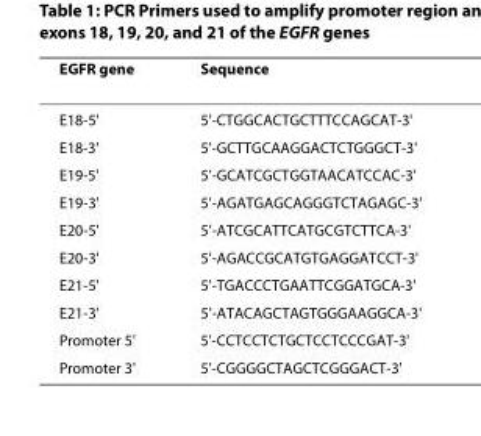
<table><thead><tr><td>EGFR gene</td><td>Sequence</td></tr></thead><tbody><tr><td>E18-5&#x27;</td><td>5&#x27;-CTGGCACTGCTTTCCAGCAT-3&#x27;</td></tr><tr><td>E18-3&#x27;</td><td>5&#x27;-GCTTGCAAGGACTCTGGGCT-3&#x27;</td></tr><tr><td>E19-5&#x27;</td><td>5&#x27;-GCATCGCTGGTAACATCCAC-3&#x27;</td></tr><tr><td>E19-3&#x27;</td><td>5&#x27;-AGATGAGCAGGGTCTAGAGC-3&#x27;</td></tr><tr><td>E20-5&#x27;</td><td>5&#x27;-ATCGCATTCATGCGTCTTCA-3&#x27;</td></tr><tr><td>E20-3&#x27;</td><td>5&#x27;-AGACCGCATGTGAGGATCCT-3&#x27;</td></tr><tr><td>E21-5&#x27;</td><td>5&#x27;-TGACCCTGAATTCGGATGCA-3&#x27;</td></tr><tr><td>E21-3&#x27;</td><td>5&#x27;-ATACAGCTAGTGGGAAGGCA-3&#x27;</td></tr><tr><td>Promoter 5&#x27;</td><td>5&#x27;-CCTCCTCTGCTCCTCCCGAT-3&#x27;</td></tr><tr><td>Promoter 3&#x27;</td><td>5&#x27;-CGGGGCTAGCTCGGGACT-3&#x27;</td></tr></tbody></table>